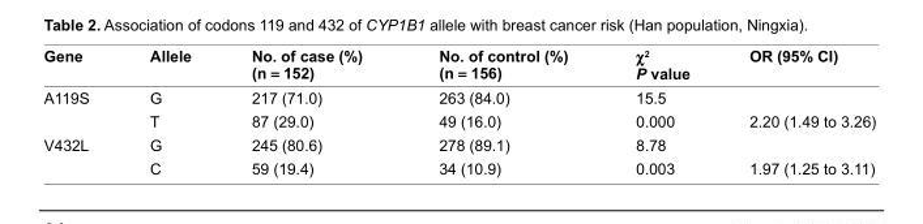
<table><thead><tr><td>Gene</td><td>Allele</td><td>no. of case (%) (n = 152)</td><td>no. of control (%) (n = 156)</td><td>χ<sup>2</sup> P value</td><td>OR (95% cI)</td></tr></thead><tbody><tr><td rowspan="2">A119s</td><td>g</td><td>217 (71.0)</td><td>263 (84.0)</td><td>15.5</td><td></td></tr><tr><td>T</td><td>87 (29.0)</td><td>49 (16.0)</td><td>0.000</td><td>2.20 (1.49 to 3.26)</td></tr><tr><td rowspan="2">V432L</td><td>g</td><td>245 (80.6)</td><td>278 (89.1)</td><td>8.78</td><td></td></tr><tr><td>c</td><td>59 (19.4)</td><td>34 (10.9)</td><td>0.003</td><td>1.97 (1.25 to 3.11)</td></tr></tbody></table>